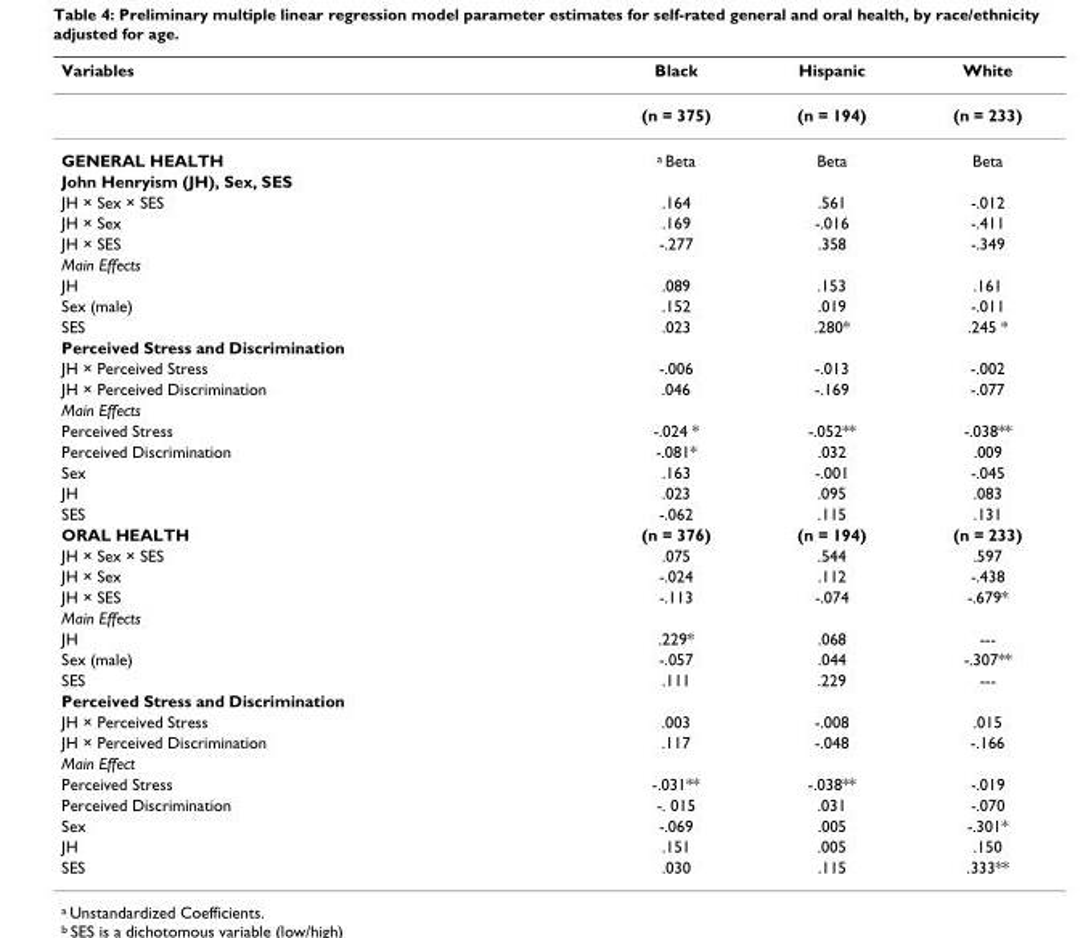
<table><thead><tr><td>Variables</td><td>Black</td><td>Hispanic</td><td>White</td></tr></thead><tbody><tr><td></td><td>(n = 375)</td><td>(n = 194)</td><td>(n = 233)</td></tr><tr><td>GENERAL HEALTH</td><td><sup>a</sup> Beta</td><td>Beta</td><td>Beta</td></tr><tr><td colspan="4">John Henryism (JH), Sex, SES</td></tr><tr><td>JH × Sex × SES</td><td>.164</td><td>.561</td><td>-.012</td></tr><tr><td>JH × Sex</td><td>.169</td><td>-.016</td><td>-.411</td></tr><tr><td>JH × SES</td><td>-.277</td><td>.358</td><td>-.349</td></tr><tr><td colspan="4">Main Effects</td></tr><tr><td>JH</td><td>.089</td><td>.153</td><td>.161</td></tr><tr><td>Sex (male)</td><td>.152</td><td>.019</td><td>-.011</td></tr><tr><td>SES</td><td>.023</td><td>.280*</td><td>.245 *</td></tr><tr><td colspan="4">Perceived Stress and Discrimination</td></tr><tr><td>JH × Perceived Stress</td><td>-.006</td><td>-.013</td><td>-.002</td></tr><tr><td>JH × Perceived Discrimination</td><td>.046</td><td>-.169</td><td>-.077</td></tr><tr><td colspan="4">Main Effects</td></tr><tr><td>Perceived Stress</td><td>-.024 *</td><td>-.052**</td><td>-.038**</td></tr><tr><td>Perceived Discrimination</td><td>-.081*</td><td>.032</td><td>.009</td></tr><tr><td>Sex</td><td>.163</td><td>-.001</td><td>-.045</td></tr><tr><td>JH</td><td>.023</td><td>.095</td><td>.083</td></tr><tr><td>SES</td><td>-.062</td><td>.115</td><td>.131</td></tr><tr><td>ORAL HEALTH</td><td>(n = 376)</td><td>(n = 194)</td><td>(n = 233)</td></tr><tr><td>JH × Sex × SES</td><td>.075</td><td>.544</td><td>.597</td></tr><tr><td>JH × Sex</td><td>-.024</td><td>.112</td><td>-.438</td></tr><tr><td>JH × SES</td><td>-.113</td><td>-.074</td><td>-.679*</td></tr><tr><td colspan="4">Main Effects</td></tr><tr><td>JH</td><td>.229*</td><td>.068</td><td>---</td></tr><tr><td>Sex (male)</td><td>-.057</td><td>.044</td><td>-.307**</td></tr><tr><td>SES</td><td>.111</td><td>.229</td><td>---</td></tr><tr><td colspan="4">Perceived Stress and Discrimination</td></tr><tr><td>JH × Perceived Stress</td><td>.003</td><td>-.008</td><td>.015</td></tr><tr><td>JH × Perceived Discrimination</td><td>.117</td><td>-.048</td><td>-.166</td></tr><tr><td colspan="4">Main Effect</td></tr><tr><td>Perceived Stress</td><td>-.031**</td><td>-.038**</td><td>-.019</td></tr><tr><td>Perceived Discrimination</td><td>-. 015</td><td>.031</td><td>-.070</td></tr><tr><td>Sex</td><td>-.069</td><td>.005</td><td>-.301*</td></tr><tr><td>JH</td><td>.151</td><td>.005</td><td>.150</td></tr><tr><td>SES</td><td>.030</td><td>.115</td><td>.333**</td></tr></tbody></table>